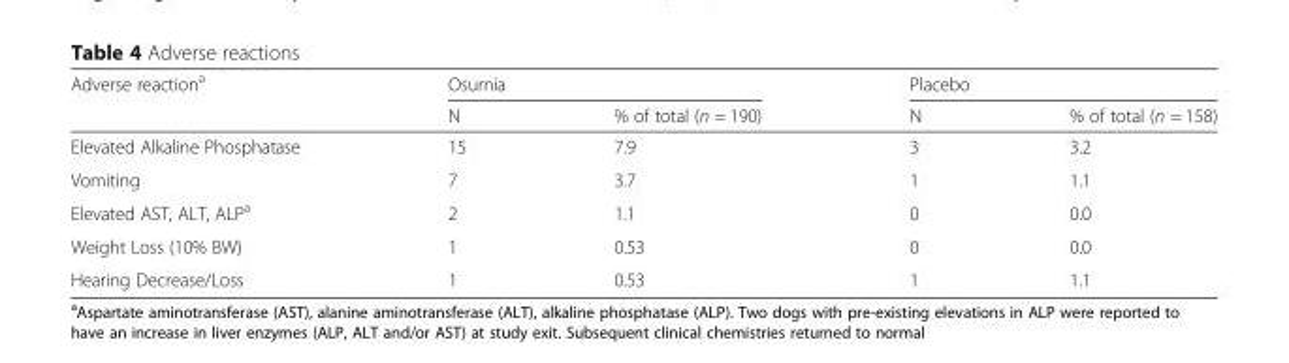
<table><thead><tr><td rowspan="2">Adverse reaction<sup>a</sup></td><td colspan="2">Osurnia</td><td colspan="2">Placebo</td></tr><tr><td>N</td><td>% of total (n = 190)</td><td>N</td><td>% of total (n = 158)</td></tr></thead><tbody><tr><td>Elevated Alkaline Phosphatase</td><td>15</td><td>7.9</td><td>3</td><td>3.2</td></tr><tr><td>Vomiting</td><td>7</td><td>3.7</td><td>1</td><td>1.1</td></tr><tr><td>Elevated AST, ALT, ALP<sup>a</sup></td><td>2</td><td>1.1</td><td>0</td><td>0.0</td></tr><tr><td>Weight Loss (10% BW)</td><td>1</td><td>0.53</td><td>0</td><td>0.0</td></tr><tr><td>Hearing Decrease/Loss</td><td>1</td><td>0.53</td><td>1</td><td>1.1</td></tr></tbody></table>